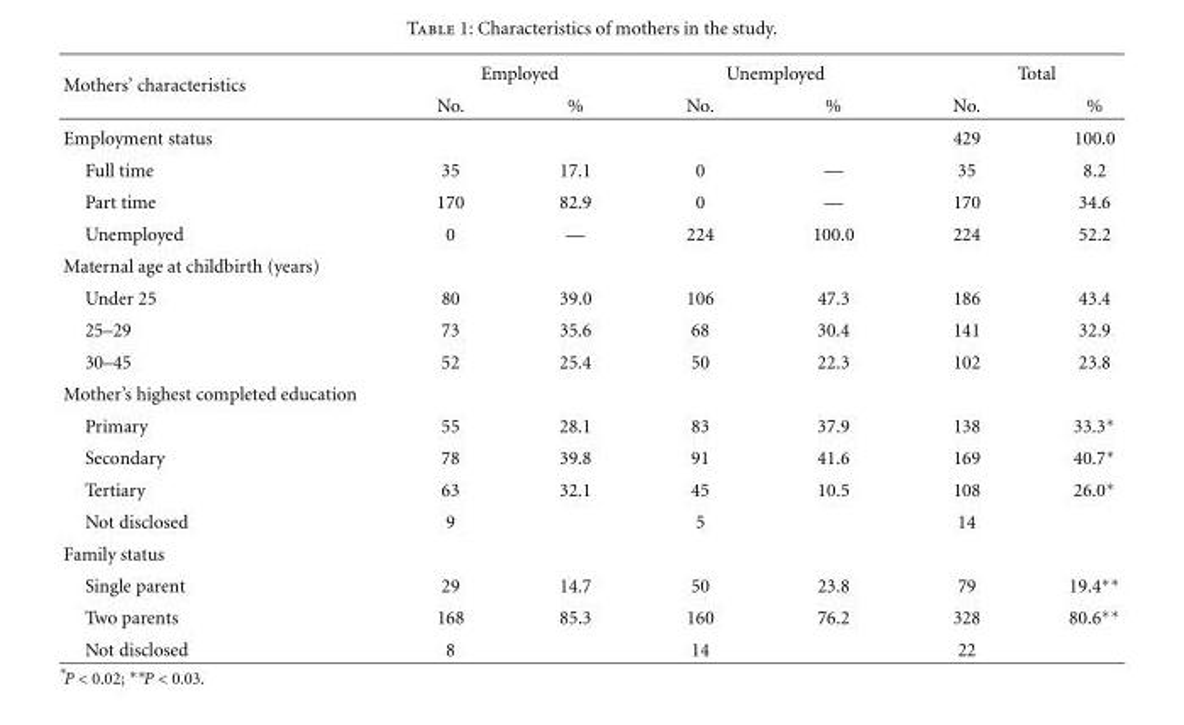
<table><thead><tr><td rowspan="2">Mothers’ characteristics</td><td colspan="2">Employed</td><td colspan="2">Unemployed</td><td colspan="2">Total</td></tr><tr><td>No.</td><td>%</td><td>No.</td><td>%</td><td>No.</td><td>%</td></tr></thead><tbody><tr><td>Employment status</td><td></td><td></td><td></td><td></td><td>429</td><td>100.0</td></tr><tr><td>Full time</td><td>35</td><td>17.1</td><td>0</td><td>—</td><td>35</td><td>8.2</td></tr><tr><td>Part time</td><td>170</td><td>82.9</td><td>0</td><td>—</td><td>170</td><td>34.6</td></tr><tr><td>Unemployed</td><td>0</td><td>—</td><td>224</td><td>100.0</td><td>224</td><td>52.2</td></tr><tr><td colspan="7">Maternal age at childbirth (years)</td></tr><tr><td>Under 25</td><td>80</td><td>39.0</td><td>106</td><td>47.3</td><td>186</td><td>43.4</td></tr><tr><td>25–29</td><td>73</td><td>35.6</td><td>68</td><td>30.4</td><td>141</td><td>32.9</td></tr><tr><td>30–45</td><td>52</td><td>25.4</td><td>50</td><td>22.3</td><td>102</td><td>23.8</td></tr><tr><td colspan="7">Mother’s highest completed education</td></tr><tr><td>Primary</td><td>55</td><td>28.1</td><td>83</td><td>37.9</td><td>138</td><td>33.3∗</td></tr><tr><td>Secondary</td><td>78</td><td>39.8</td><td>91</td><td>41.6</td><td>169</td><td>40.7∗</td></tr><tr><td>Tertiary</td><td>63</td><td>32.1</td><td>45</td><td>10.5</td><td>108</td><td>26.0∗</td></tr><tr><td>Not disclosed</td><td>9</td><td></td><td>5</td><td></td><td>14</td><td></td></tr><tr><td colspan="7">Family status</td></tr><tr><td>Single parent</td><td>29</td><td>14.7</td><td>50</td><td>23.8</td><td>79</td><td>19.4∗∗</td></tr><tr><td>Two parents</td><td>168</td><td>85.3</td><td>160</td><td>76.2</td><td>328</td><td>80.6∗∗</td></tr><tr><td>Not disclosed</td><td>8</td><td></td><td>14</td><td></td><td>22</td><td></td></tr></tbody></table>